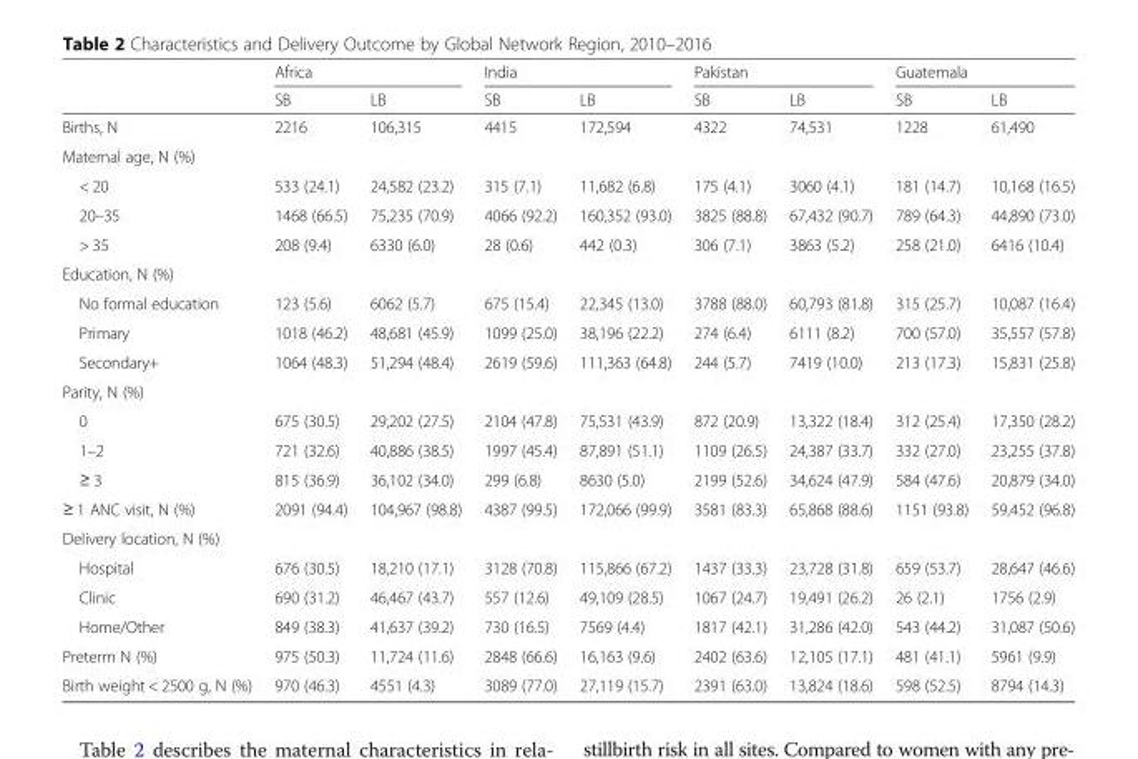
<table><thead><tr><td rowspan="2"></td><td colspan="2">Africa</td><td colspan="2">India</td><td colspan="2">Pakistan</td><td colspan="2">Guatemala</td></tr><tr><td>SB</td><td>LB</td><td>SB</td><td>LB</td><td>SB</td><td>LB</td><td>SB</td><td>LB</td></tr></thead><tbody><tr><td>Births, N</td><td>2216</td><td>106,315</td><td>4415</td><td>172,594</td><td>4322</td><td>74,531</td><td>1228</td><td>61,490</td></tr><tr><td colspan="9">Maternal age, N (%)</td></tr><tr><td>&lt; 20</td><td>533 (24.1)</td><td>24,582 (23.2)</td><td>315 (7.1)</td><td>11,682 (6.8)</td><td>175 (4.1)</td><td>3060 (4.1)</td><td>181 (14.7)</td><td>10,168 (16.5)</td></tr><tr><td>20–35</td><td>1468 (66.5)</td><td>75,235 (70.9)</td><td>4066 (92.2)</td><td>160,352 (93.0)</td><td>3825 (88.8)</td><td>67,432 (90.7)</td><td>789 (64.3)</td><td>44,890 (73.0)</td></tr><tr><td>&gt; 35</td><td>208 (9.4)</td><td>6330 (6.0)</td><td>28 (0.6)</td><td>442 (0.3)</td><td>306 (7.1)</td><td>3863 (5.2)</td><td>258 (21.0)</td><td>6416 (10.4)</td></tr><tr><td colspan="9">Education, N (%)</td></tr><tr><td>No formal education</td><td>123 (5.6)</td><td>6062 (5.7)</td><td>675 (15.4)</td><td>22,345 (13.0)</td><td>3788 (88.0)</td><td>60,793 (81.8)</td><td>315 (25.7)</td><td>10,087 (16.4)</td></tr><tr><td>Primary</td><td>1018 (46.2)</td><td>48,681 (45.9)</td><td>1099 (25.0)</td><td>38,196 (22.2)</td><td>274 (6.4)</td><td>6111 (8.2)</td><td>700 (57.0)</td><td>35,557 (57.8)</td></tr><tr><td>Secondary+</td><td>1064 (48.3)</td><td>51,294 (48.4)</td><td>2619 (59.6)</td><td>111,363 (64.8)</td><td>244 (5.7)</td><td>7419 (10.0)</td><td>213 (17.3)</td><td>15,831 (25.8)</td></tr><tr><td colspan="9">Parity, N (%)</td></tr><tr><td>0</td><td>675 (30.5)</td><td>29,202 (27.5)</td><td>2104 (47.8)</td><td>75,531 (43.9)</td><td>872 (20.9)</td><td>13,322 (18.4)</td><td>312 (25.4)</td><td>17,350 (28.2)</td></tr><tr><td>1–2</td><td>721 (32.6)</td><td>40,886 (38.5)</td><td>1997 (45.4)</td><td>87,891 (51.1)</td><td>1109 (26.5)</td><td>24,387 (33.7)</td><td>332 (27.0)</td><td>23,255 (37.8)</td></tr><tr><td>≥ 3</td><td>815 (36.9)</td><td>36,102 (34.0)</td><td>299 (6.8)</td><td>8630 (5.0)</td><td>2199 (52.6)</td><td>34,624 (47.9)</td><td>584 (47.6)</td><td>20,879 (34.0)</td></tr><tr><td>≥ 1 ANC visit, N (%)</td><td>2091 (94.4)</td><td>104,967 (98.8)</td><td>4387 (99.5)</td><td>172,066 (99.9)</td><td>3581 (83.3)</td><td>65,868 (88.6)</td><td>1151 (93.8)</td><td>59,452 (96.8)</td></tr><tr><td colspan="9">Delivery location, N (%)</td></tr><tr><td>Hospital</td><td>676 (30.5)</td><td>18,210 (17.1)</td><td>3128 (70.8)</td><td>115,866 (67.2)</td><td>1437 (33.3)</td><td>23,728 (31.8)</td><td>659 (53.7)</td><td>28,647 (46.6)</td></tr><tr><td>Clinic</td><td>690 (31.2)</td><td>46,467 (43.7)</td><td>557 (12.6)</td><td>49,109 (28.5)</td><td>1067 (24.7)</td><td>19,491 (26.2)</td><td>26 (2.1)</td><td>1756 (2.9)</td></tr><tr><td>Home/Other</td><td>849 (38.3)</td><td>41,637 (39.2)</td><td>730 (16.5)</td><td>7569 (4.4)</td><td>1817 (42.1)</td><td>31,286 (42.0)</td><td>543 (44.2)</td><td>31,087 (50.6)</td></tr><tr><td>Preterm N (%)</td><td>975 (50.3)</td><td>11,724 (11.6)</td><td>2848 (66.6)</td><td>16,163 (9.6)</td><td>2402 (63.6)</td><td>12,105 (17.1)</td><td>481 (41.1)</td><td>5961 (9.9)</td></tr><tr><td>Birth weight &lt; 2500 g, N (%)</td><td>970 (46.3)</td><td>4551 (4.3)</td><td>3089 (77.0)</td><td>27,119 (15.7)</td><td>2391 (63.0)</td><td>13,824 (18.6)</td><td>598 (52.5)</td><td>8794 (14.3)</td></tr></tbody></table>